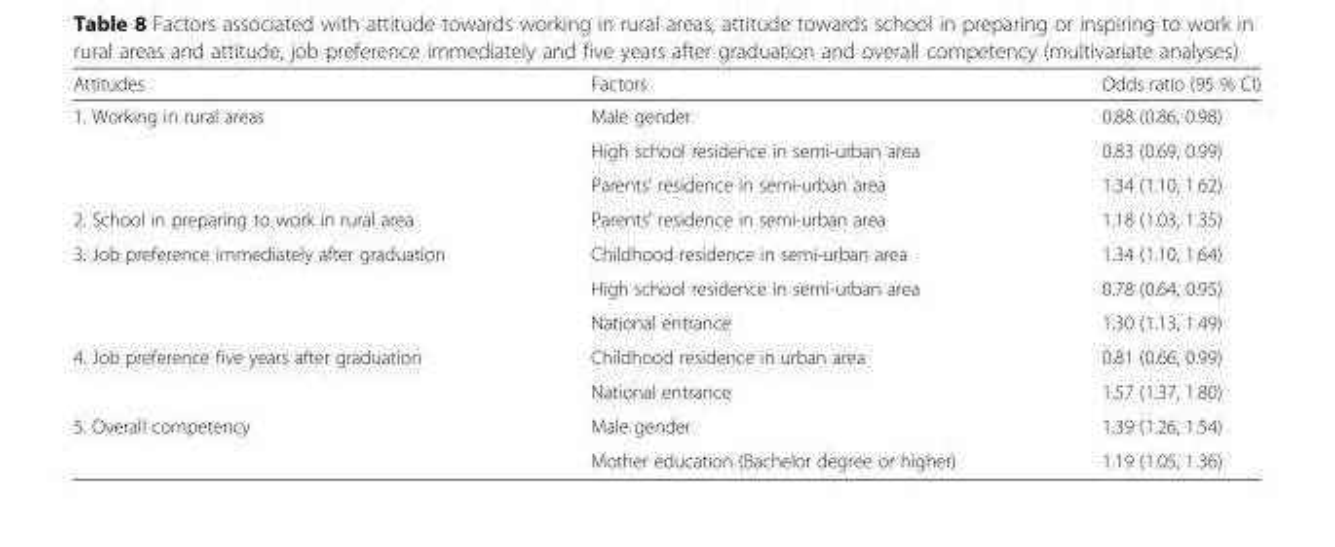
<table><thead><tr><td>Attitudes</td><td>Factors</td><td>Odds ratio (95 % CI)</td></tr></thead><tbody><tr><td rowspan="3">1. Working in rural areas</td><td>Male gender</td><td>0.88 (0.86, 0.98)</td></tr><tr><td>High school residence in semi-urban area</td><td>0.83 (0.69, 0.99)</td></tr><tr><td>Parents’ residence in semi-urban area</td><td>1.34 (1.10, 1.62)</td></tr><tr><td>2. School in preparing to work in rural area</td><td>Parents’ residence in semi-urban area</td><td>1.18 (1.03, 1.35)</td></tr><tr><td rowspan="3">3. Job preference immediately after graduation</td><td>Childhood residence in semi-urban area</td><td>1.34 (1.10, 1.64)</td></tr><tr><td>High school residence in semi-urban area</td><td>0.78 (0.64, 0.95)</td></tr><tr><td>National entrance</td><td>1.30 (1.13, 1.49)</td></tr><tr><td rowspan="2">4. Job preference five years after graduation</td><td>Childhood residence in urban area</td><td>0.81 (0.66, 0.99)</td></tr><tr><td>National entrance</td><td>1.57 (1.37, 1.80)</td></tr><tr><td rowspan="2">5. Overall competency</td><td>Male gender</td><td>1.39 (1.26, 1.54)</td></tr><tr><td>Mother education (Bachelor degree or higher)</td><td>1.19 (1.05, 1.36)</td></tr></tbody></table>